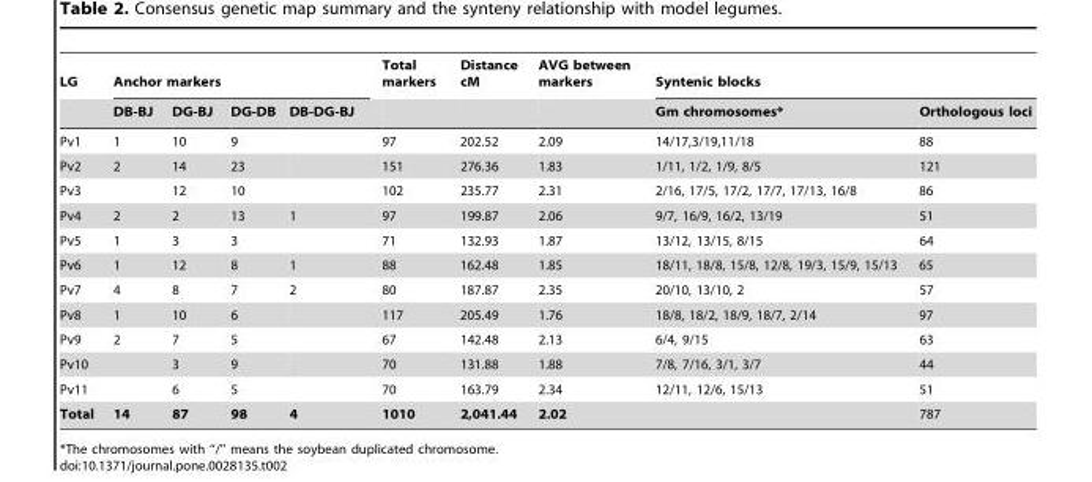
<table><thead><tr><td rowspan="2">LG</td><td colspan="4">Anchor markers</td><td rowspan="2">Total markers</td><td rowspan="2">Distance cM</td><td rowspan="2">AVG between markers</td><td colspan="2">Syntenic blocks</td></tr><tr><td>DB-BJ</td><td>DG-BJ</td><td>DG-DB</td><td>DB-DG-BJ</td><td>Gm chromosomes*</td><td>Orthologous loci</td></tr></thead><tbody><tr><td>Pv1</td><td>1</td><td>10</td><td>9</td><td></td><td>97</td><td>202.52</td><td>2.09</td><td>14/17,3/19,11/18</td><td>88</td></tr><tr><td>Pv2</td><td>2</td><td>14</td><td>23</td><td></td><td>151</td><td>276.36</td><td>1.83</td><td>1/11, 1/2, 1/9, 8/5</td><td>121</td></tr><tr><td>Pv3</td><td></td><td>12</td><td>10</td><td></td><td>102</td><td>235.77</td><td>2.31</td><td>2/16, 17/5, 17/2, 17/7, 17/13, 16/8</td><td>86</td></tr><tr><td>Pv4</td><td>2</td><td>2</td><td>13</td><td>1</td><td>97</td><td>199.87</td><td>2.06</td><td>9/7, 16/9, 16/2, 13/19</td><td>51</td></tr><tr><td>Pv5</td><td>1</td><td>3</td><td>3</td><td></td><td>71</td><td>132.93</td><td>1.87</td><td>13/12, 13/15, 8/15</td><td>64</td></tr><tr><td>Pv6</td><td>1</td><td>12</td><td>8</td><td>1</td><td>88</td><td>162.48</td><td>1.85</td><td>18/11, 18/8, 15/8, 12/8, 19/3, 15/9, 15/13</td><td>65</td></tr><tr><td>Pv7</td><td>4</td><td>8</td><td>7</td><td>2</td><td>80</td><td>187.87</td><td>2.35</td><td>20/10, 13/10, 2</td><td>57</td></tr><tr><td>Pv8</td><td>1</td><td>10</td><td>6</td><td></td><td>117</td><td>205.49</td><td>1.76</td><td>18/8, 18/2, 18/9, 18/7, 2/14</td><td>97</td></tr><tr><td>Pv9</td><td>2</td><td>7</td><td>5</td><td></td><td>67</td><td>142.48</td><td>2.13</td><td>6/4, 9/15</td><td>63</td></tr><tr><td>Pv10</td><td></td><td>3</td><td>9</td><td></td><td>70</td><td>131.88</td><td>1.88</td><td>7/8, 7/16, 3/1, 3/7</td><td>44</td></tr><tr><td>Pv11</td><td></td><td>6</td><td>5</td><td></td><td>70</td><td>163.79</td><td>2.34</td><td>12/11, 12/6, 15/13</td><td>51</td></tr><tr><td>Total</td><td>14</td><td>87</td><td>98</td><td>4</td><td>1010</td><td>2,041.44</td><td>2.02</td><td></td><td>787</td></tr></tbody></table>